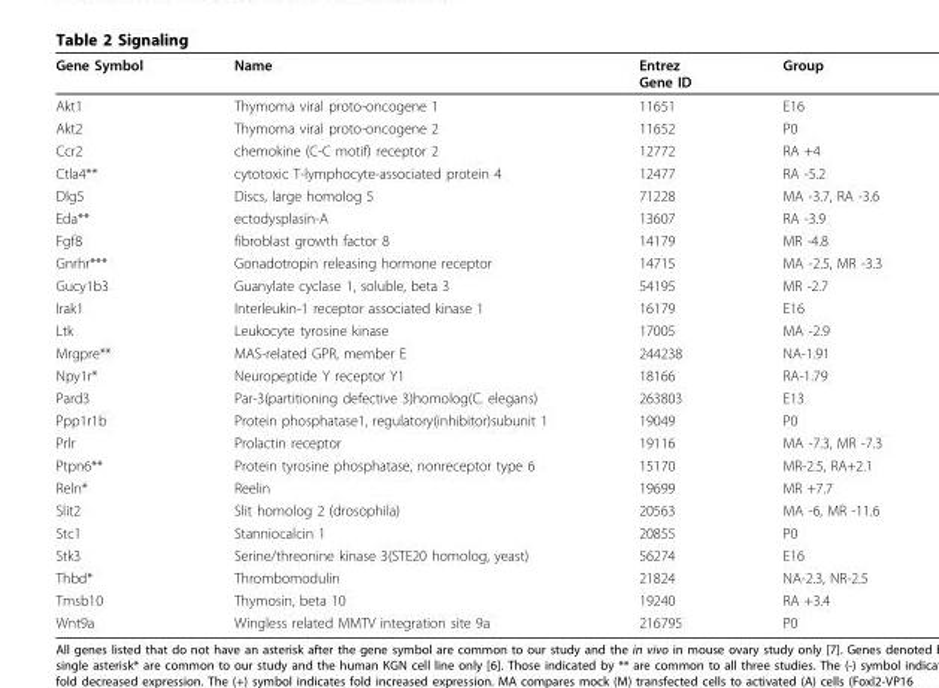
<table><thead><tr><td>Gene Symbol</td><td>Name</td><td>Entrez Gene ID</td><td>Group</td></tr></thead><tbody><tr><td>Akt1</td><td>Thymoma viral proto-oncogene 1</td><td>11651</td><td>E16</td></tr><tr><td>Akt2</td><td>Thymoma viral proto-oncogene 2</td><td>11652</td><td>P0</td></tr><tr><td>Ccr2</td><td>chemokine (C-C motif) receptor 2</td><td>12772</td><td>RA +4</td></tr><tr><td>Ctla4**</td><td>cytotoxic T-lymphocyte-associated protein 4</td><td>12477</td><td>RA -5.2</td></tr><tr><td>Dlg5</td><td>Discs, large homolog 5</td><td>71228</td><td>MA -3.7, RA -3.6</td></tr><tr><td>Eda**</td><td>ectodysplasin-A</td><td>13607</td><td>RA -3.9</td></tr><tr><td>Fgf8</td><td>fibroblast growth factor 8</td><td>14179</td><td>MR -4.8</td></tr><tr><td>Gnrhr***</td><td>Gonadotropin releasing hormone receptor</td><td>14715</td><td>MA -2.5, MR -3.3</td></tr><tr><td>Gucy1b3</td><td>Guanylate cyclase 1, soluble, beta 3</td><td>54195</td><td>MR -2.7</td></tr><tr><td>Irak1</td><td>Interleukin-1 receptor associated kinase 1</td><td>16179</td><td>E16</td></tr><tr><td>Ltk</td><td>Leukocyte tyrosine kinase</td><td>17005</td><td>MA -2.9</td></tr><tr><td>Mrgpre**</td><td>MAS-related GPR, member E</td><td>244238</td><td>NA-1.91</td></tr><tr><td>Npy1r*</td><td>Neuropeptide Y receptor Y1</td><td>18166</td><td>RA-1.79</td></tr><tr><td>Pard3</td><td>Par-3(partitioning defective 3)homolog(C. elegans)</td><td>263803</td><td>E13</td></tr><tr><td>Ppp1r1b</td><td>Protein phosphatase1, regulatory(inhibitor)subunit 1</td><td>19049</td><td>P0</td></tr><tr><td>Prlr</td><td>Prolactin receptor</td><td>19116</td><td>MA -7.3, MR -7.3</td></tr><tr><td>Ptpn6**</td><td>Protein tyrosine phosphatase, nonreceptor type 6</td><td>15170</td><td>MR-2.5, RA+2.1</td></tr><tr><td>Reln*</td><td>Reelin</td><td>19699</td><td>MR +7.7</td></tr><tr><td>Slit2</td><td>Slit homolog 2 (drosophila)</td><td>20563</td><td>MA -6, MR -11.6</td></tr><tr><td>Stc1</td><td>Stanniocalcin 1</td><td>20855</td><td>P0</td></tr><tr><td>Stk3</td><td>Serine/threonine kinase 3(STE20 homolog, yeast)</td><td>56274</td><td>E16</td></tr><tr><td>Thbd*</td><td>Thrombomodulin</td><td>21824</td><td>NA-2.3, NR-2.5</td></tr><tr><td>Tmsb10</td><td>Thymosin, beta 10</td><td>19240</td><td>RA +3.4</td></tr><tr><td>Wnt9a</td><td>Wingless related MMTV integration site 9a</td><td>216795</td><td>P0</td></tr></tbody></table>